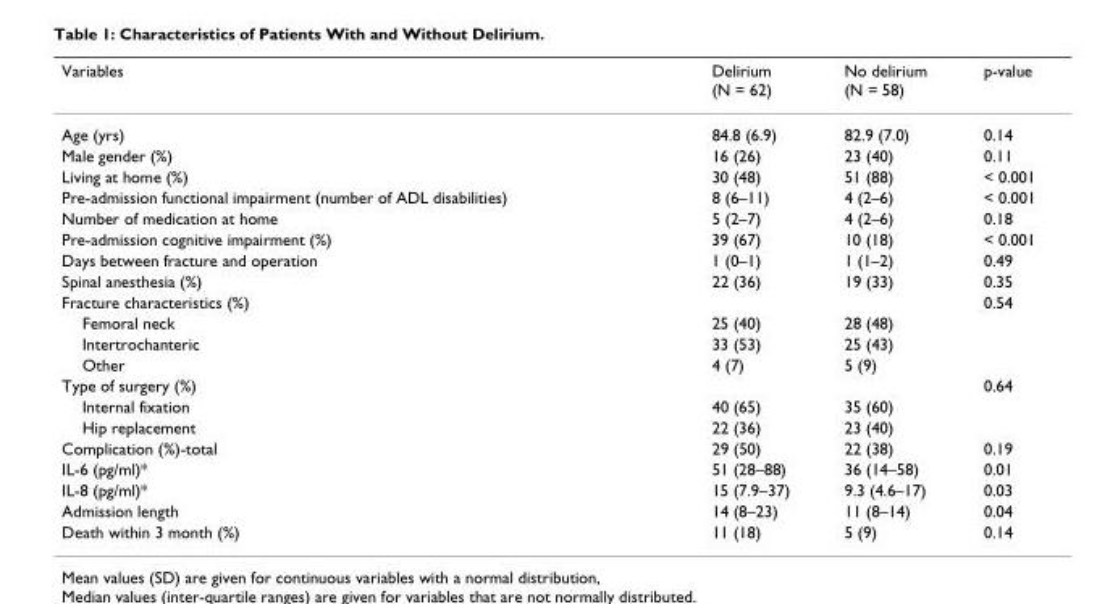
<table><thead><tr><td>Variables</td><td>Delirium (N = 62)</td><td>No delirium (N = 58)</td><td>p-value</td></tr></thead><tbody><tr><td>Age (yrs)</td><td>84.8 (6.9)</td><td>82.9 (7.0)</td><td>0.14</td></tr><tr><td>Male gender (%)</td><td>16 (26)</td><td>23 (40)</td><td>0.11</td></tr><tr><td>Living at home (%)</td><td>30 (48)</td><td>51 (88)</td><td>&lt; 0.001</td></tr><tr><td>Pre-admission functional impairment (number of ADL disabilities)</td><td>8 (6–11)</td><td>4 (2–6)</td><td>&lt; 0.001</td></tr><tr><td>Number of medication at home</td><td>5 (2–7)</td><td>4 (2–6)</td><td>0.18</td></tr><tr><td>Pre-admission cognitive impairment (%)</td><td>39 (67)</td><td>10 (18)</td><td>&lt; 0.001</td></tr><tr><td>Days between fracture and operation</td><td>1 (0–1)</td><td>1 (1–2)</td><td>0.49</td></tr><tr><td>Spinal anesthesia (%)</td><td>22 (36)</td><td>19 (33)</td><td>0.35</td></tr><tr><td>Fracture characteristics (%)</td><td></td><td></td><td>0.54</td></tr><tr><td>Femoral neck</td><td>25 (40)</td><td>28 (48)</td><td></td></tr><tr><td>Intertrochanteric</td><td>33 (53)</td><td>25 (43)</td><td></td></tr><tr><td>Other</td><td>4 (7)</td><td>5 (9)</td><td></td></tr><tr><td>Type of surgery (%)</td><td></td><td></td><td>0.64</td></tr><tr><td>Internal fixation</td><td>40 (65)</td><td>35 (60)</td><td></td></tr><tr><td>Hip replacement</td><td>22 (36)</td><td>23 (40)</td><td></td></tr><tr><td>Complication (%)-total</td><td>29 (50)</td><td>22 (38)</td><td>0.19</td></tr><tr><td>IL-6 (pg/ml)*</td><td>51 (28–88)</td><td>36 (14–58)</td><td>0.01</td></tr><tr><td>IL-8 (pg/ml)*</td><td>15 (7.9–37)</td><td>9.3 (4.6–17)</td><td>0.03</td></tr><tr><td>Admission length</td><td>14 (8–23)</td><td>11 (8–14)</td><td>0.04</td></tr><tr><td>Death within 3 month (%)</td><td>11 (18)</td><td>5 (9)</td><td>0.14</td></tr></tbody></table>